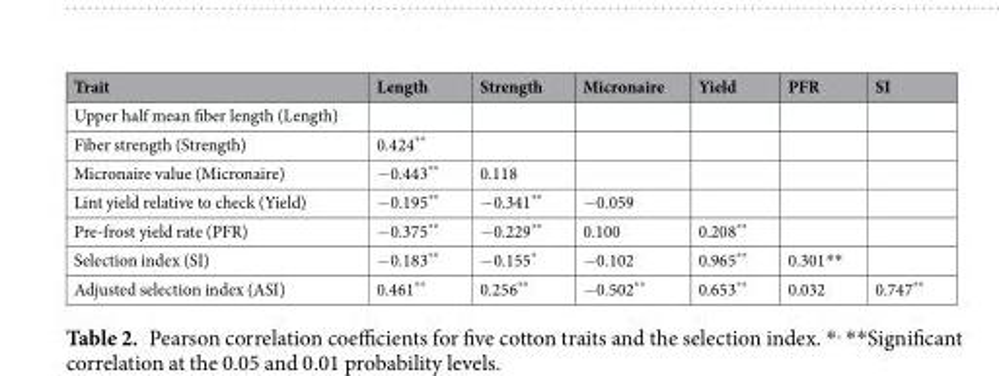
<table><thead><tr><td>Trait</td><td>Length</td><td>Strength</td><td>Micronaire</td><td>Yield</td><td>PFR</td><td>SI</td></tr></thead><tbody><tr><td colspan="7">Upper half mean fiber length (Length)</td></tr><tr><td>Fiber strength (Strength)</td><td>0.424**</td><td></td><td></td><td></td><td></td><td></td></tr><tr><td>Micronaire value (Micronaire)</td><td>−0.443**</td><td>0.118</td><td></td><td></td><td></td><td></td></tr><tr><td>Lint yield relative to check (Yield)</td><td>−0.195**</td><td>−0.341**</td><td>−0.059</td><td></td><td></td><td></td></tr><tr><td>Pre-frost yield rate (PFR)</td><td>−0.375**</td><td>−0.229**</td><td>0.100</td><td>0.208**</td><td></td><td></td></tr><tr><td>Selection index (SI)</td><td>−0.183**</td><td>−0.155*</td><td>−0.102</td><td>0.965**</td><td>0.301**</td><td></td></tr><tr><td>Adjusted selection index (ASI)</td><td>0.461**</td><td>0.256**</td><td>−0.502**</td><td>0.653**</td><td>0.032</td><td>0.747**</td></tr></tbody></table>